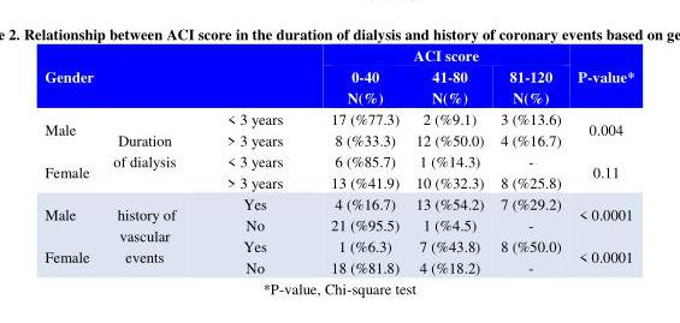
<table><thead><tr><td rowspan="2">Gender</td><td rowspan="2"></td><td rowspan="2"></td><td colspan="3">ACI score</td><td rowspan="2">P-value*</td></tr><tr><td>0-40 N(%)</td><td>41-80 N(%)</td><td>81-120 N(%)</td></tr></thead><tbody><tr><td>Male</td><td rowspan="2">Duration of dialysis</td><td>&lt; 3 years &gt; 3 years</td><td>17 (%77.3) 8 (%33.3)</td><td>2 (%9.1) 12 (%50.0)</td><td>3 (%13.6) 4 (%16.7)</td><td>0.004</td></tr><tr><td>Female</td><td>&lt; 3 years &gt; 3 years</td><td>6 (%85.7) 13 (%41.9)</td><td>1 (%14.3) 10 (%32.3)</td><td>- 8 (%25.8)</td><td>0.11</td></tr><tr><td>Male</td><td rowspan="2">history of vascular events</td><td>Yes No</td><td>4 (%16.7) 21 (%95.5)</td><td>13 (%54.2) 1 (%4.5)</td><td>7 (%29.2) -</td><td>&lt; 0.0001</td></tr><tr><td>Female</td><td>Yes No</td><td>1 (%6.3) 18 (%81.8)</td><td>7 (%43.8) 4 (%18.2)</td><td>8 (%50.0) -</td><td>&lt; 0.0001</td></tr></tbody></table>